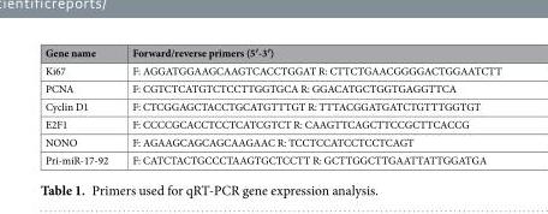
<table><thead><tr><td>Gene name</td><td>Forward/reverse primers (5′-3′)</td></tr></thead><tbody><tr><td>Ki67</td><td>F: AGGATGGAAGCAAGTCACCTGGAT R: CTTCTGAACGGGGACTGGAATCTT</td></tr><tr><td>PCNA</td><td>F: CGTCTCATGTCTCCTTGGTGCA R: GGACATGCTGGTGAGGTTCA</td></tr><tr><td>Cyclin D1</td><td>F: CTCGGAGCTACCTGCATGTTTGT R: TTTACGGATGATCTGTTTGGTGT</td></tr><tr><td>E2F1</td><td>F: CCCCGCACCTCCTCATCGTCT R: CAAGTTCAGCTTCCGCTTCACCG</td></tr><tr><td>NONO</td><td>F: AGAAGCAGCAGCAAGAAC R: TCCTCCATCCTCCTCAGT</td></tr><tr><td>Pri-miR-17-92</td><td>F: CATCTACTGCCCTAAGTGCTCCTT R: GCTTGGCTTGAATTATTGGATGA</td></tr></tbody></table>